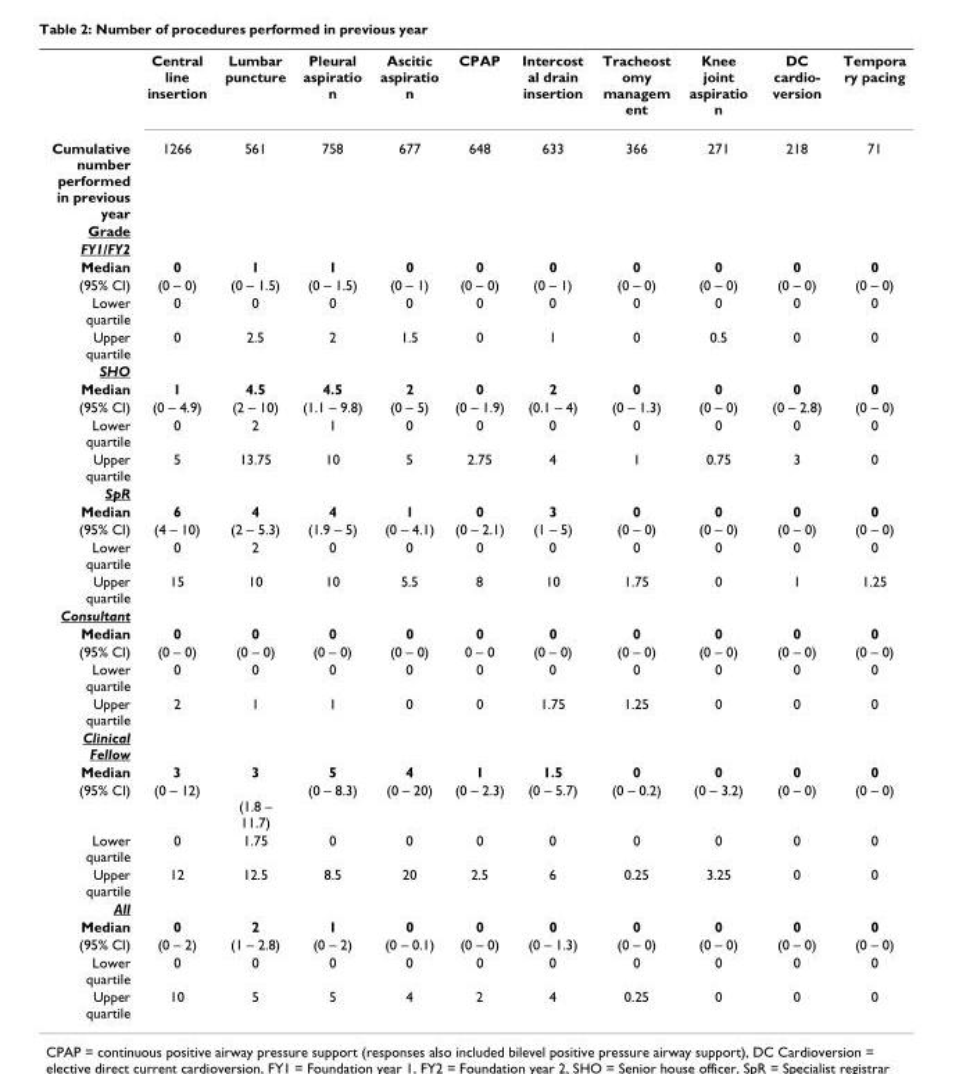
<table><thead><tr><td></td><td>Central line insertion</td><td>Lumbar puncture</td><td>Pleural aspiratio n</td><td>Ascitic aspiratio n</td><td>CPAP</td><td>Intercost al drain insertion</td><td>Tracheost omy managem ent</td><td>Knee joint aspiratio n</td><td>DC cardio- version</td><td>Tempora ry pacing</td></tr></thead><tbody><tr><td>Cumulative number performed in previous year</td><td>1266</td><td>561</td><td>758</td><td>677</td><td>648</td><td>633</td><td>366</td><td>271</td><td>218</td><td>71</td></tr><tr><td colspan="11">Grade</td></tr><tr><td colspan="11">FY1/FY2</td></tr><tr><td>Median</td><td>0</td><td>1</td><td>1</td><td>0</td><td>0</td><td>0</td><td>0</td><td>0</td><td>0</td><td>0</td></tr><tr><td>(95% CI)</td><td>(0 – 0)</td><td>(0 – 1.5)</td><td>(0 – 1.5)</td><td>(0 – 1)</td><td>(0 – 0)</td><td>(0 – 1)</td><td>(0 – 0)</td><td>(0 – 0)</td><td>(0 – 0)</td><td>(0 – 0)</td></tr><tr><td>Lower quartile</td><td>0</td><td>0</td><td>0</td><td>0</td><td>0</td><td>0</td><td>0</td><td>0</td><td>0</td><td>0</td></tr><tr><td>Upper quartile</td><td>0</td><td>2.5</td><td>2</td><td>1.5</td><td>0</td><td>1</td><td>0</td><td>0.5</td><td>0</td><td>0</td></tr><tr><td colspan="11">SHO</td></tr><tr><td>Median</td><td>1</td><td>4.5</td><td>4.5</td><td>2</td><td>0</td><td>2</td><td>0</td><td>0</td><td>0</td><td>0</td></tr><tr><td>(95% CI)</td><td>(0 – 4.9)</td><td>(2 – 10)</td><td>(1.1 – 9.8)</td><td>(0 – 5)</td><td>(0 – 1.9)</td><td>(0.1 – 4)</td><td>(0 – 1.3)</td><td>(0 – 0)</td><td>(0 – 2.8)</td><td>(0 – 0)</td></tr><tr><td>Lower quartile</td><td>0</td><td>2</td><td>1</td><td>0</td><td>0</td><td>0</td><td>0</td><td>0</td><td>0</td><td>0</td></tr><tr><td>Upper quartile</td><td>5</td><td>13.75</td><td>10</td><td>5</td><td>2.75</td><td>4</td><td>1</td><td>0.75</td><td>3</td><td>0</td></tr><tr><td colspan="11">SpR</td></tr><tr><td>Median</td><td>6</td><td>4</td><td>4</td><td>1</td><td>0</td><td>3</td><td>0</td><td>0</td><td>0</td><td>0</td></tr><tr><td>(95% CI)</td><td>(4 – 10)</td><td>(2 – 5.3)</td><td>(1.9 – 5)</td><td>(0 – 4.1)</td><td>(0 – 2.1)</td><td>(1 – 5)</td><td>(0 – 0)</td><td>(0 – 0)</td><td>(0 – 0)</td><td>(0 – 0)</td></tr><tr><td>Lower quartile</td><td>0</td><td>2</td><td>0</td><td>0</td><td>0</td><td>0</td><td>0</td><td>0</td><td>0</td><td>0</td></tr><tr><td>Upper quartile</td><td>15</td><td>10</td><td>10</td><td>5.5</td><td>8</td><td>10</td><td>1.75</td><td>0</td><td>1</td><td>1.25</td></tr><tr><td colspan="11">Consultant</td></tr><tr><td>Median</td><td>0</td><td>0</td><td>0</td><td>0</td><td>0</td><td>0</td><td>0</td><td>0</td><td>0</td><td>0</td></tr><tr><td>(95% CI)</td><td>(0 – 0)</td><td>(0 – 0)</td><td>(0 – 0)</td><td>(0 – 0)</td><td>0 – 0</td><td>(0 – 0)</td><td>(0 – 0)</td><td>(0 – 0)</td><td>(0 – 0)</td><td>(0 – 0)</td></tr><tr><td>Lower quartile</td><td>0</td><td>0</td><td>0</td><td>0</td><td>0</td><td>0</td><td>0</td><td>0</td><td>0</td><td>0</td></tr><tr><td>Upper quartile</td><td>2</td><td>1</td><td>1</td><td>0</td><td>0</td><td>1.75</td><td>1.25</td><td>0</td><td>0</td><td>0</td></tr><tr><td colspan="11">Clinical Fellow</td></tr><tr><td>Median</td><td>3</td><td>3</td><td>5</td><td>4</td><td>1</td><td>1.5</td><td>0</td><td>0</td><td>0</td><td>0</td></tr><tr><td>(95% CI)</td><td>(0 – 12)</td><td>(1.8 – 11.7)</td><td>(0 – 8.3)</td><td>(0 – 20)</td><td>(0 – 2.3)</td><td>(0 – 5.7)</td><td>(0 – 0.2)</td><td>(0 – 3.2)</td><td>(0 – 0)</td><td>(0 – 0)</td></tr><tr><td>Lower quartile</td><td>0</td><td>1.75</td><td>0</td><td>0</td><td>0</td><td>0</td><td>0</td><td>0</td><td>0</td><td>0</td></tr><tr><td>Upper quartile</td><td>12</td><td>12.5</td><td>8.5</td><td>20</td><td>2.5</td><td>6</td><td>0.25</td><td>3.25</td><td>0</td><td>0</td></tr><tr><td colspan="11">All</td></tr><tr><td>Median</td><td>0</td><td>2</td><td>1</td><td>0</td><td>0</td><td>0</td><td>0</td><td>0</td><td>0</td><td>0</td></tr><tr><td>(95% CI)</td><td>(0 – 2)</td><td>(1 – 2.8)</td><td>(0 – 2)</td><td>(0 – 0.1)</td><td>(0 – 0)</td><td>(0 – 1.3)</td><td>(0 – 0)</td><td>(0 – 0)</td><td>(0 – 0)</td><td>(0 – 0)</td></tr><tr><td>Lower quartile</td><td>0</td><td>0</td><td>0</td><td>0</td><td>0</td><td>0</td><td>0</td><td>0</td><td>0</td><td>0</td></tr><tr><td>Upper quartile</td><td>10</td><td>5</td><td>5</td><td>4</td><td>2</td><td>4</td><td>0.25</td><td>0</td><td>0</td><td>0</td></tr></tbody></table>